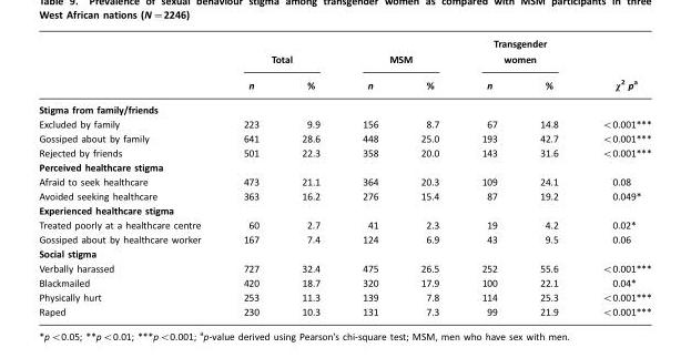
<table><thead><tr><td rowspan="2"></td><td colspan="2">Total</td><td colspan="2">MSM</td><td colspan="2">Transgender women</td><td rowspan="2">χ<sup>2</sup> p<sup>a</sup></td></tr><tr><td>n</td><td>%</td><td>n</td><td>%</td><td>n</td><td>%</td></tr></thead><tbody><tr><td colspan="8">Stigma from family/friends</td></tr><tr><td>Excluded by family</td><td>223</td><td>9.9</td><td>156</td><td>8.7</td><td>67</td><td>14.8</td><td>&lt;0.001***</td></tr><tr><td>Gossiped about by family</td><td>641</td><td>28.6</td><td>448</td><td>25.0</td><td>193</td><td>42.7</td><td>&lt;0.001***</td></tr><tr><td>Rejected by friends</td><td>501</td><td>22.3</td><td>358</td><td>20.0</td><td>143</td><td>31.6</td><td>&lt;0.001***</td></tr><tr><td colspan="8">Perceived healthcare stigma</td></tr><tr><td>Afraid to seek healthcare</td><td>473</td><td>21.1</td><td>364</td><td>20.3</td><td>109</td><td>24.1</td><td>0.08</td></tr><tr><td>Avoided seeking healthcare</td><td>363</td><td>16.2</td><td>276</td><td>15.4</td><td>87</td><td>19.2</td><td>0.049*</td></tr><tr><td colspan="8">Experienced healthcare stigma</td></tr><tr><td>Treated poorly at a healthcare centre</td><td>60</td><td>2.7</td><td>41</td><td>2.3</td><td>19</td><td>4.2</td><td>0.02*</td></tr><tr><td>Gossiped about by healthcare worker</td><td>167</td><td>7.4</td><td>124</td><td>6.9</td><td>43</td><td>9.5</td><td>0.06</td></tr><tr><td colspan="8">Social stigma</td></tr><tr><td>Verbally harassed</td><td>727</td><td>32.4</td><td>475</td><td>26.5</td><td>252</td><td>55.6</td><td>&lt;0.001***</td></tr><tr><td>Blackmailed</td><td>420</td><td>18.7</td><td>320</td><td>17.9</td><td>100</td><td>22.1</td><td>0.04*</td></tr><tr><td>Physically hurt</td><td>253</td><td>11.3</td><td>139</td><td>7.8</td><td>114</td><td>25.3</td><td>&lt;0.001***</td></tr><tr><td>Raped</td><td>230</td><td>10.3</td><td>131</td><td>7.3</td><td>99</td><td>21.9</td><td>&lt;0.001***</td></tr></tbody></table>